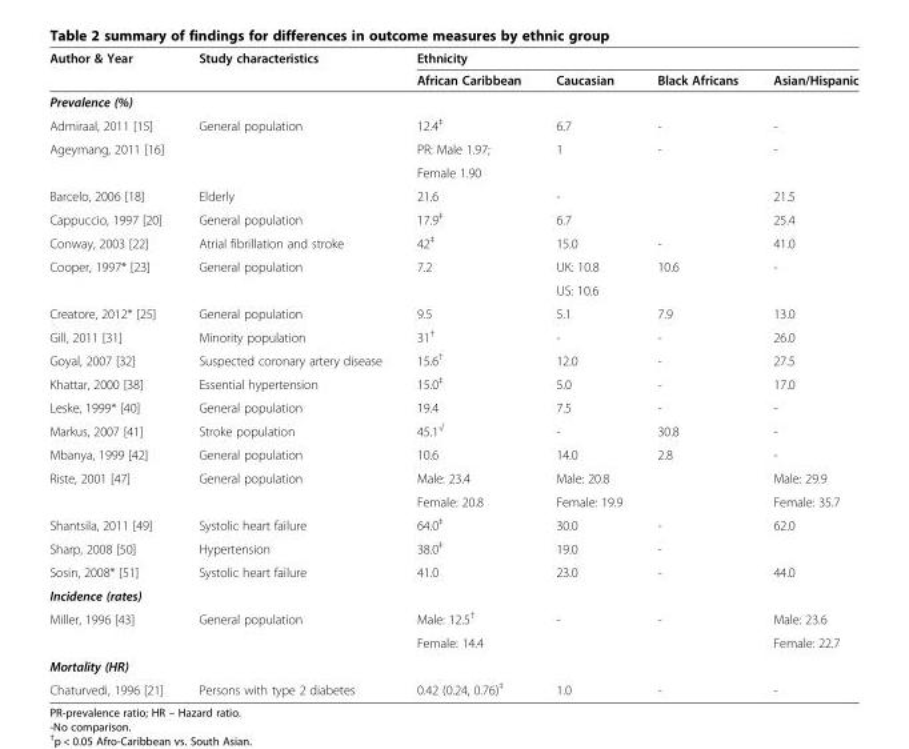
<table><thead><tr><td rowspan="2">Author &amp; Year</td><td rowspan="2">Study characteristics</td><td colspan="4">Ethnicity</td></tr><tr><td>African Caribbean</td><td>Caucasian</td><td>Black Africans</td><td>Asian/Hispanic</td></tr></thead><tbody><tr><td colspan="6">Prevalence (%)</td></tr><tr><td>Admiraal, 2011 [15]</td><td>General population</td><td>12.4<sup>‡</sup></td><td>6.7</td><td>-</td><td>-</td></tr><tr><td rowspan="2">Ageymang, 2011 [16]</td><td rowspan="2"></td><td>PR: Male 1.97;</td><td rowspan="2">1</td><td rowspan="2">-</td><td rowspan="2">-</td></tr><tr><td>Female 1.90</td></tr><tr><td>Barcelo, 2006 [18]</td><td>Elderly</td><td>21.6</td><td>-</td><td></td><td>21.5</td></tr><tr><td>Cappuccio, 1997 [20]</td><td>General population</td><td>17.9<sup>‡</sup></td><td>6.7</td><td></td><td>25.4</td></tr><tr><td>Conway, 2003 [22]</td><td>Atrial fibrillation and stroke</td><td>42<sup>‡</sup></td><td>15.0</td><td>-</td><td>41.0</td></tr><tr><td rowspan="2">Cooper, 1997* [23]</td><td rowspan="2">General population</td><td rowspan="2">7.2</td><td>UK: 10.8</td><td rowspan="2">10.6</td><td rowspan="2">-</td></tr><tr><td>US: 10.6</td></tr><tr><td>Creatore, 2012* [25]</td><td>General population</td><td>9.5</td><td>5.1</td><td>7.9</td><td>13.0</td></tr><tr><td>Gill, 2011 [31]</td><td>Minority population</td><td>31<sup>†</sup></td><td>-</td><td>-</td><td>26.0</td></tr><tr><td>Goyal, 2007 [32]</td><td>Suspected coronary artery disease</td><td>15.6<sup>†</sup></td><td>12.0</td><td>-</td><td>27.5</td></tr><tr><td>Khattar, 2000 [38]</td><td>Essential hypertension</td><td>15.0<sup>‡</sup></td><td>5.0</td><td>-</td><td>17.0</td></tr><tr><td>Leske, 1999* [40]</td><td>General population</td><td>19.4</td><td>7.5</td><td>-</td><td>-</td></tr><tr><td>Markus, 2007 [41]</td><td>Stroke population</td><td>45.1<sup>√</sup></td><td>-</td><td>30.8</td><td>-</td></tr><tr><td>Mbanya, 1999 [42]</td><td>General population</td><td>10.6</td><td>14.0</td><td>2.8</td><td>-</td></tr><tr><td rowspan="2">Riste, 2001 [47]</td><td rowspan="2">General population</td><td>Male: 23.4</td><td>Male: 20.8</td><td rowspan="2"></td><td>Male: 29.9</td></tr><tr><td>Female: 20.8</td><td>Female: 19.9</td><td>Female: 35.7</td></tr><tr><td>Shantsila, 2011 [49]</td><td>Systolic heart failure</td><td>64.0<sup>‡</sup></td><td>30.0</td><td>-</td><td>62.0</td></tr><tr><td>Sharp, 2008 [50]</td><td>Hypertension</td><td>38.0<sup>‡</sup></td><td>19.0</td><td>-</td><td></td></tr><tr><td>Sosin, 2008* [51]</td><td>Systolic heart failure</td><td>41.0</td><td>23.0</td><td>-</td><td>44.0</td></tr><tr><td colspan="6">Incidence (rates)</td></tr><tr><td rowspan="2">Miller, 1996 [43]</td><td rowspan="2">General population</td><td>Male: 12.5<sup>†</sup></td><td rowspan="2">-</td><td rowspan="2">-</td><td>Male: 23.6</td></tr><tr><td>Female: 14.4</td><td>Female: 22.7</td></tr><tr><td colspan="6">Mortality (HR)</td></tr><tr><td>Chaturvedi, 1996 [21]</td><td>Persons with type 2 diabetes</td><td>0.42 (0.24, 0.76)<sup>‡</sup></td><td>1.0</td><td>-</td><td>-</td></tr></tbody></table>